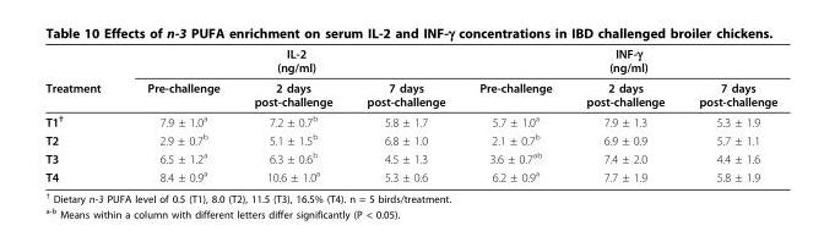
<table><thead><tr><td rowspan="2">Treatment</td><td colspan="3">IL-2 (ng/ml)</td><td colspan="3">INF-γ (ng/ml)</td></tr><tr><td>Pre-challenge</td><td>2 days post-challenge</td><td>7 days post-challenge</td><td>Pre-challenge</td><td>2 days post-challenge</td><td>7 days post-challenge</td></tr></thead><tbody><tr><td>T1<sup>†</sup></td><td>7.9 ± 1.0<sup>a</sup></td><td>7.2 ± 0.7<sup>b</sup></td><td>5.8 ± 1.7</td><td>5.7 ± 1.0<sup>a</sup></td><td>7.9 ± 1.3</td><td>5.3 ± 1.9</td></tr><tr><td>T2</td><td>2.9 ± 0.7<sup>b</sup></td><td>5.1 ± 1.5<sup>b</sup></td><td>6.8 ± 1.0</td><td>2.1 ± 0.7<sup>b</sup></td><td>6.9 ± 0.9</td><td>5.7 ± 1.1</td></tr><tr><td>T3</td><td>6.5 ± 1.2<sup>a</sup></td><td>6.3 ± 0.6<sup>b</sup></td><td>4.5 ± 1.3</td><td>3.6 ± 0.7<sup>ab</sup></td><td>7.4 ± 2.0</td><td>4.4 ± 1.6</td></tr><tr><td>T4</td><td>8.4 ± 0.9<sup>a</sup></td><td>10.6 ± 1.0<sup>a</sup></td><td>5.3 ± 0.6</td><td>6.2 ± 0.9<sup>a</sup></td><td>7.7 ± 1.9</td><td>5.8 ± 1.9</td></tr></tbody></table>